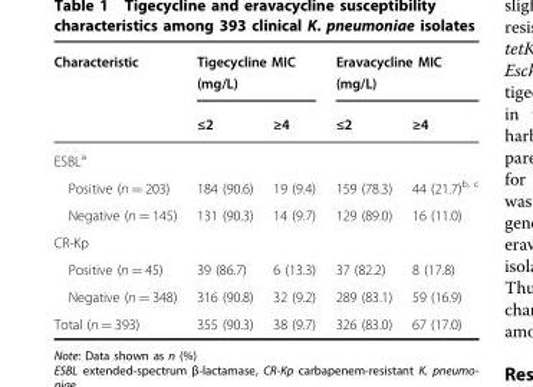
<table><thead><tr><td rowspan="2">Characteristic</td><td colspan="2">Tigecycline MIC (mg/L)</td><td colspan="2">Eravacycline MIC (mg/L)</td></tr><tr><td>≤2</td><td>≥4</td><td>≤2</td><td>≥4</td></tr></thead><tbody><tr><td colspan="5">ESBL<sup>a</sup></td></tr><tr><td>Positive (n = 203)</td><td>184 (90.6)</td><td>19 (9.4)</td><td>159 (78.3)</td><td>44 (21.7)<sup>b, c</sup></td></tr><tr><td>Negative (n = 145)</td><td>131 (90.3)</td><td>14 (9.7)</td><td>129 (89.0)</td><td>16 (11.0)</td></tr><tr><td colspan="5">CR-Kp</td></tr><tr><td>Positive (n = 45)</td><td>39 (86.7)</td><td>6 (13.3)</td><td>37 (82.2)</td><td>8 (17.8)</td></tr><tr><td>Negative (n = 348)</td><td>316 (90.8)</td><td>32 (9.2)</td><td>289 (83.1)</td><td>59 (16.9)</td></tr><tr><td>Total (n = 393)</td><td>355 (90.3)</td><td>38 (9.7)</td><td>326 (83.0)</td><td>67 (17.0)</td></tr></tbody></table>